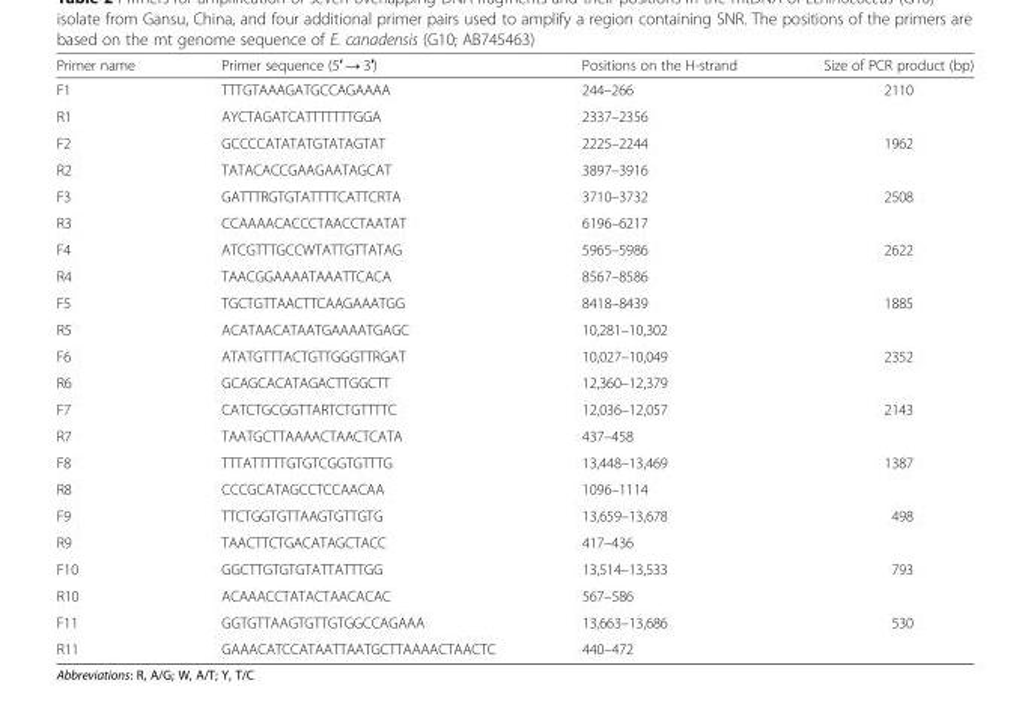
<table><thead><tr><td>Primer name</td><td>Primer sequence (5′ → 3′)</td><td>Positions on the H-strand</td><td>Size of PCR product (bp)</td></tr></thead><tbody><tr><td>F1</td><td>TTTGTAAAGATGCCAGAAAA</td><td>244–266</td><td rowspan="2">2110</td></tr><tr><td>R1</td><td>AYCTAGATCATTTTTTTGGA</td><td>2337–2356</td></tr><tr><td>F2</td><td>GCCCCATATATGTATAGTAT</td><td>2225–2244</td><td rowspan="2">1962</td></tr><tr><td>R2</td><td>TATACACCGAAGAATAGCAT</td><td>3897–3916</td></tr><tr><td>F3</td><td>GATTTRGTGTATTTTCATTCRTA</td><td>3710–3732</td><td rowspan="2">2508</td></tr><tr><td>R3</td><td>CCAAAACACCCTAACCTAATAT</td><td>6196–6217</td></tr><tr><td>F4</td><td>ATCGTTTGCCWTATTGTTATAG</td><td>5965–5986</td><td rowspan="2">2622</td></tr><tr><td>R4</td><td>TAACGGAAAATAAATTCACA</td><td>8567–8586</td></tr><tr><td>F5</td><td>TGCTGTTAACTTCAAGAAATGG</td><td>8418–8439</td><td rowspan="2">1885</td></tr><tr><td>R5</td><td>ACATAACATAATGAAAATGAGC</td><td>10,281–10,302</td></tr><tr><td>F6</td><td>ATATGTTTACTGTTGGGTTRGAT</td><td>10,027–10,049</td><td rowspan="2">2352</td></tr><tr><td>R6</td><td>GCAGCACATAGACTTGGCTT</td><td>12,360–12,379</td></tr><tr><td>F7</td><td>CATCTGCGGTTARTCTGTTTTC</td><td>12,036–12,057</td><td rowspan="2">2143</td></tr><tr><td>R7</td><td>TAATGCTTAAAACTAACTCATA</td><td>437–458</td></tr><tr><td>F8</td><td>TTTATTTTTGTGTCGGTGTTTG</td><td>13,448–13,469</td><td rowspan="2">1387</td></tr><tr><td>R8</td><td>CCCGCATAGCCTCCAACAA</td><td>1096–1114</td></tr><tr><td>F9</td><td>TTCTGGTGTTAAGTGTTGTG</td><td>13,659–13,678</td><td rowspan="2">498</td></tr><tr><td>R9</td><td>TAACTTCTGACATAGCTACC</td><td>417–436</td></tr><tr><td>F10</td><td>GGCTTGTGTGTATTATTTGG</td><td>13,514–13,533</td><td rowspan="2">793</td></tr><tr><td>R10</td><td>ACAAACCTATACTAACACAC</td><td>567–586</td></tr><tr><td>F11</td><td>GGTGTTAAGTGTTGTGGCCAGAAA</td><td>13,663–13,686</td><td rowspan="2">530</td></tr><tr><td>R11</td><td>GAAACATCCATAATTAATGCTTAAAACTAACTC</td><td>440–472</td></tr></tbody></table>